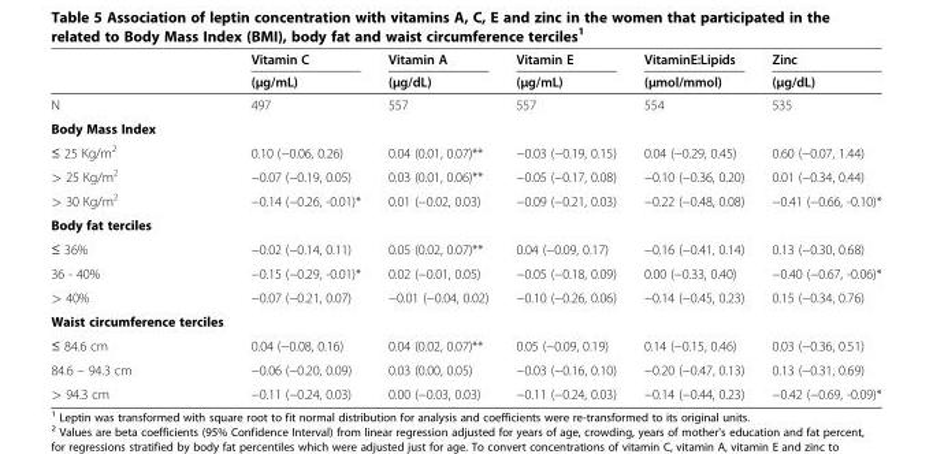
<table><thead><tr><td rowspan="2"></td><td rowspan="2">Vitamin C (μg/mL)</td><td rowspan="2">Vitamin A (μg/dL)</td><td rowspan="2">Vitamin E (μg/mL)</td><td rowspan="2">VitaminE:Lipids (μmol/mmol)</td><td rowspan="2">Zinc (μg/dL)</td></tr><tr></tr></thead><tbody><tr><td>N</td><td>497</td><td>557</td><td>557</td><td>554</td><td>535</td></tr><tr><td colspan="6">Body Mass Index</td></tr><tr><td>≤ 25 Kg/m<sup>2</sup></td><td>0.10 (−0.06, 0.26)</td><td>0.04 (0.01, 0.07)**</td><td>−0.03 (−0.19, 0.15)</td><td>0.04 (−0.29, 0.45)</td><td>0.60 (−0.07, 1.44)</td></tr><tr><td>&gt; 25 Kg/m<sup>2</sup></td><td>−0.07 (−0.19, 0.05)</td><td>0.03 (0.01, 0.06)**</td><td>−0.05 (−0.17, 0.08)</td><td>−0.10 (−0.36, 0.20)</td><td>0.01 (−0.34, 0.44)</td></tr><tr><td>&gt; 30 Kg/m<sup>2</sup></td><td>−0.14 (−0.26, -0.01)*</td><td>0.01 (−0.02, 0.03)</td><td>−0.09 (−0.21, 0.03)</td><td>−0.22 (−0.48, 0.08)</td><td>−0.41 (−0.66, -0.10)*</td></tr><tr><td colspan="6">Body fat terciles</td></tr><tr><td>≤ 36%</td><td>−0.02 (−0.14, 0.11)</td><td>0.05 (0.02, 0.07)**</td><td>0.04 (−0.09, 0.17)</td><td>−0.16 (−0.41, 0.14)</td><td>0.13 (−0.30, 0.68)</td></tr><tr><td>36 - 40%</td><td>−0.15 (−0.29, -0.01)*</td><td>0.02 (−0.01, 0.05)</td><td>−0.05 (−0.18, 0.09)</td><td>0.00 (−0.33, 0.40)</td><td>−0.40 (−0.67, -0.06)*</td></tr><tr><td>&gt; 40%</td><td>−0.07 (−0.21, 0.07)</td><td>−0.01 (−0.04, 0.02)</td><td>−0.10 (−0.26, 0.06)</td><td>−0.14 (−0.45, 0.23)</td><td>0.15 (−0.34, 0.76)</td></tr><tr><td colspan="6">Waist circumference terciles</td></tr><tr><td>≤ 84.6 cm</td><td>0.04 (−0.08, 0.16)</td><td>0.04 (0.02, 0.07)**</td><td>0.05 (−0.09, 0.19)</td><td>0.14 (−0.15, 0.46)</td><td>0.03 (−0.36, 0.51)</td></tr><tr><td>84.6 – 94.3 cm</td><td>−0.06 (−0.20, 0.09)</td><td>0.03 (0.00, 0.05)</td><td>−0.03 (−0.16, 0.10)</td><td>−0.20 (−0.47, 0.13)</td><td>0.13 (−0.31, 0.69)</td></tr><tr><td>&gt; 94.3 cm</td><td>−0.11 (−0.24, 0.03)</td><td>0.00 (−0.03, 0.03)</td><td>−0.11 (−0.24, 0.03)</td><td>−0.14 (−0.44, 0.23)</td><td>−0.42 (−0.69, -0.09)*</td></tr></tbody></table>